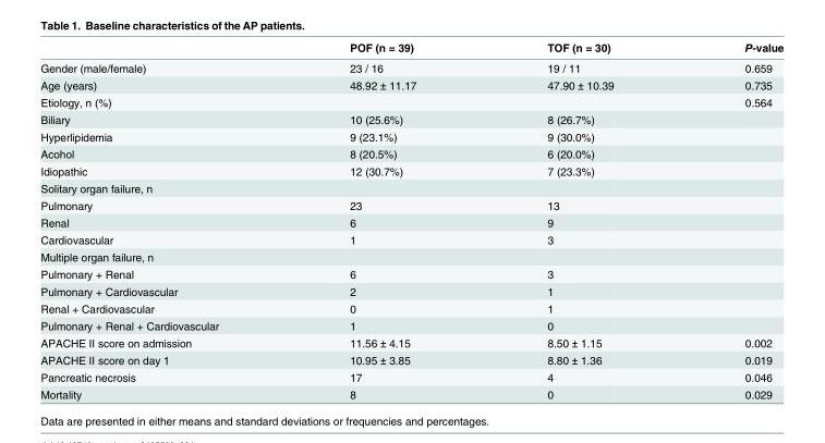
<table><thead><tr><td></td><td>POF (n = 39)</td><td>TOF (n = 30)</td><td>P-value</td></tr></thead><tbody><tr><td>Gender (male/female)</td><td>23 / 16</td><td>19 / 11</td><td>0.659</td></tr><tr><td>Age (years)</td><td>48.92 ± 11.17</td><td>47.90 ± 10.39</td><td>0.735</td></tr><tr><td>Etiology, n (%)</td><td></td><td></td><td>0.564</td></tr><tr><td>Biliary</td><td>10 (25.6%)</td><td>8 (26.7%)</td><td></td></tr><tr><td>Hyperlipidemia</td><td>9 (23.1%)</td><td>9 (30.0%)</td><td></td></tr><tr><td>Acohol</td><td>8 (20.5%)</td><td>6 (20.0%)</td><td></td></tr><tr><td>Idiopathic</td><td>12 (30.7%)</td><td>7 (23.3%)</td><td></td></tr><tr><td colspan="4">Solitary organ failure, n</td></tr><tr><td>Pulmonary</td><td>23</td><td>13</td><td></td></tr><tr><td>Renal</td><td>6</td><td>9</td><td></td></tr><tr><td>Cardiovascular</td><td>1</td><td>3</td><td></td></tr><tr><td colspan="4">Multiple organ failure, n</td></tr><tr><td>Pulmonary + Renal</td><td>6</td><td>3</td><td></td></tr><tr><td>Pulmonary + Cardiovascular</td><td>2</td><td>1</td><td></td></tr><tr><td>Renal + Cardiovascular</td><td>0</td><td>1</td><td></td></tr><tr><td>Pulmonary + Renal + Cardiovascular</td><td>1</td><td>0</td><td></td></tr><tr><td>APACHE II score on admission</td><td>11.56 ± 4.15</td><td>8.50 ± 1.15</td><td>0.002</td></tr><tr><td>APACHE II score on day 1</td><td>10.95 ± 3.85</td><td>8.80 ± 1.36</td><td>0.019</td></tr><tr><td>Pancreatic necrosis</td><td>17</td><td>4</td><td>0.046</td></tr><tr><td>Mortality</td><td>8</td><td>0</td><td>0.029</td></tr></tbody></table>